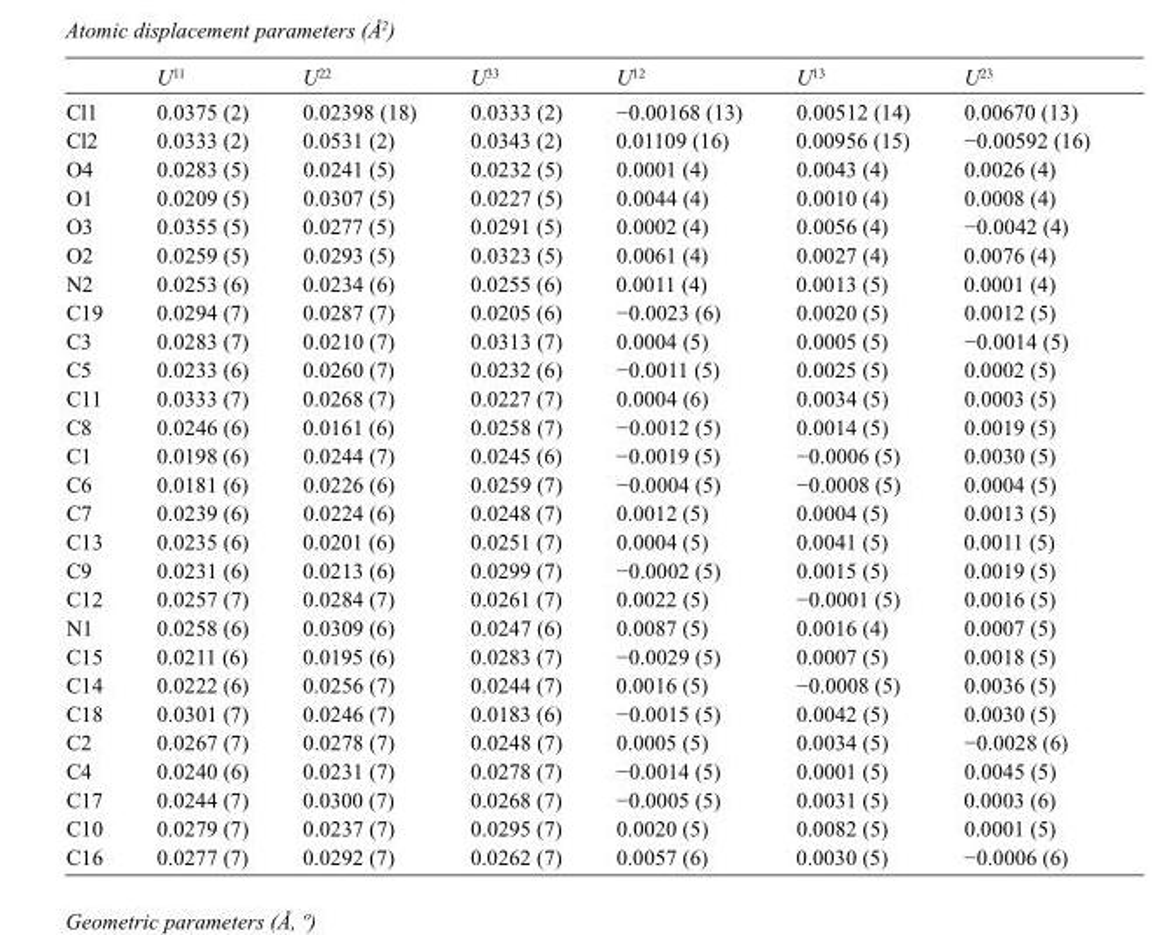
<table><thead><tr><td></td><td>U<sup>11</sup></td><td>U<sup>22</sup></td><td>U<sup>33</sup></td><td>U<sup>12</sup></td><td>U<sup>13</sup></td><td>U<sup>23</sup></td></tr></thead><tbody><tr><td>Cl1</td><td>0.0375 (2)</td><td>0.02398 (18)</td><td>0.0333 (2)</td><td>−0.00168 (13)</td><td>0.00512 (14)</td><td>0.00670 (13)</td></tr><tr><td>Cl2</td><td>0.0333 (2)</td><td>0.0531 (2)</td><td>0.0343 (2)</td><td>0.01109 (16)</td><td>0.00956 (15)</td><td>−0.00592 (16)</td></tr><tr><td>O4</td><td>0.0283 (5)</td><td>0.0241 (5)</td><td>0.0232 (5)</td><td>0.0001 (4)</td><td>0.0043 (4)</td><td>0.0026 (4)</td></tr><tr><td>O1</td><td>0.0209 (5)</td><td>0.0307 (5)</td><td>0.0227 (5)</td><td>0.0044 (4)</td><td>0.0010 (4)</td><td>0.0008 (4)</td></tr><tr><td>O3</td><td>0.0355 (5)</td><td>0.0277 (5)</td><td>0.0291 (5)</td><td>0.0002 (4)</td><td>0.0056 (4)</td><td>−0.0042 (4)</td></tr><tr><td>O2</td><td>0.0259 (5)</td><td>0.0293 (5)</td><td>0.0323 (5)</td><td>0.0061 (4)</td><td>0.0027 (4)</td><td>0.0076 (4)</td></tr><tr><td>N2</td><td>0.0253 (6)</td><td>0.0234 (6)</td><td>0.0255 (6)</td><td>0.0011 (4)</td><td>0.0013 (5)</td><td>0.0001 (4)</td></tr><tr><td>C19</td><td>0.0294 (7)</td><td>0.0287 (7)</td><td>0.0205 (6)</td><td>−0.0023 (6)</td><td>0.0020 (5)</td><td>0.0012 (5)</td></tr><tr><td>C3</td><td>0.0283 (7)</td><td>0.0210 (7)</td><td>0.0313 (7)</td><td>0.0004 (5)</td><td>0.0005 (5)</td><td>−0.0014 (5)</td></tr><tr><td>C5</td><td>0.0233 (6)</td><td>0.0260 (7)</td><td>0.0232 (6)</td><td>−0.0011 (5)</td><td>0.0025 (5)</td><td>0.0002 (5)</td></tr><tr><td>C11</td><td>0.0333 (7)</td><td>0.0268 (7)</td><td>0.0227 (7)</td><td>0.0004 (6)</td><td>0.0034 (5)</td><td>0.0003 (5)</td></tr><tr><td>C8</td><td>0.0246 (6)</td><td>0.0161 (6)</td><td>0.0258 (7)</td><td>−0.0012 (5)</td><td>0.0014 (5)</td><td>0.0019 (5)</td></tr><tr><td>C1</td><td>0.0198 (6)</td><td>0.0244 (7)</td><td>0.0245 (6)</td><td>−0.0019 (5)</td><td>−0.0006 (5)</td><td>0.0030 (5)</td></tr><tr><td>C6</td><td>0.0181 (6)</td><td>0.0226 (6)</td><td>0.0259 (7)</td><td>−0.0004 (5)</td><td>−0.0008 (5)</td><td>0.0004 (5)</td></tr><tr><td>C7</td><td>0.0239 (6)</td><td>0.0224 (6)</td><td>0.0248 (7)</td><td>0.0012 (5)</td><td>0.0004 (5)</td><td>0.0013 (5)</td></tr><tr><td>C13</td><td>0.0235 (6)</td><td>0.0201 (6)</td><td>0.0251 (7)</td><td>0.0004 (5)</td><td>0.0041 (5)</td><td>0.0011 (5)</td></tr><tr><td>C9</td><td>0.0231 (6)</td><td>0.0213 (6)</td><td>0.0299 (7)</td><td>−0.0002 (5)</td><td>0.0015 (5)</td><td>0.0019 (5)</td></tr><tr><td>C12</td><td>0.0257 (7)</td><td>0.0284 (7)</td><td>0.0261 (7)</td><td>0.0022 (5)</td><td>−0.0001 (5)</td><td>0.0016 (5)</td></tr><tr><td>N1</td><td>0.0258 (6)</td><td>0.0309 (6)</td><td>0.0247 (6)</td><td>0.0087 (5)</td><td>0.0016 (4)</td><td>0.0007 (5)</td></tr><tr><td>C15</td><td>0.0211 (6)</td><td>0.0195 (6)</td><td>0.0283 (7)</td><td>−0.0029 (5)</td><td>0.0007 (5)</td><td>0.0018 (5)</td></tr><tr><td>C14</td><td>0.0222 (6)</td><td>0.0256 (7)</td><td>0.0244 (7)</td><td>0.0016 (5)</td><td>−0.0008 (5)</td><td>0.0036 (5)</td></tr><tr><td>C18</td><td>0.0301 (7)</td><td>0.0246 (7)</td><td>0.0183 (6)</td><td>−0.0015 (5)</td><td>0.0042 (5)</td><td>0.0030 (5)</td></tr><tr><td>C2</td><td>0.0267 (7)</td><td>0.0278 (7)</td><td>0.0248 (7)</td><td>0.0005 (5)</td><td>0.0034 (5)</td><td>−0.0028 (6)</td></tr><tr><td>C4</td><td>0.0240 (6)</td><td>0.0231 (7)</td><td>0.0278 (7)</td><td>−0.0014 (5)</td><td>0.0001 (5)</td><td>0.0045 (5)</td></tr><tr><td>C17</td><td>0.0244 (7)</td><td>0.0300 (7)</td><td>0.0268 (7)</td><td>−0.0005 (5)</td><td>0.0031 (5)</td><td>0.0003 (6)</td></tr><tr><td>C10</td><td>0.0279 (7)</td><td>0.0237 (7)</td><td>0.0295 (7)</td><td>0.0020 (5)</td><td>0.0082 (5)</td><td>0.0001 (5)</td></tr><tr><td>C16</td><td>0.0277 (7)</td><td>0.0292 (7)</td><td>0.0262 (7)</td><td>0.0057 (6)</td><td>0.0030 (5)</td><td>−0.0006 (6)</td></tr></tbody></table>